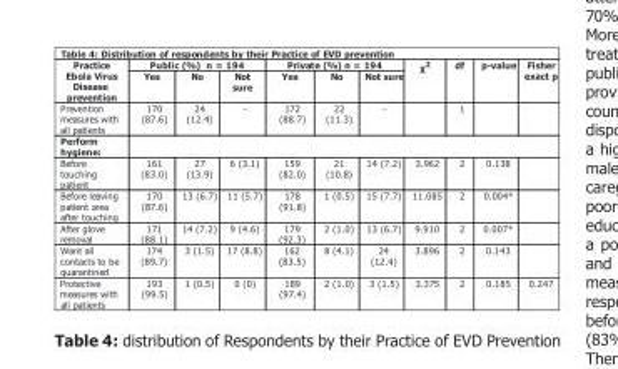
<table><thead><tr><td rowspan="2">Practice Ebola Virus Disease prevention</td><td colspan="3">Public (%) n = 194</td><td colspan="3">Private (%) n = 194</td><td rowspan="2">χ<sup>2</sup></td><td rowspan="2">df</td><td rowspan="2">pvalue</td><td rowspan="2">Fisher exact p</td></tr><tr><td>Yes</td><td>No</td><td>Not sure</td><td>Yes</td><td>No</td><td>Not sure</td></tr></thead><tbody><tr><td>Prevention measures with all patients</td><td>170 (87.6)</td><td>24 (12.4)</td><td></td><td>172 (88.7)</td><td>22 (11.3)</td><td></td><td></td><td>1</td><td></td><td></td></tr><tr><td colspan="11">Perform hygiene:</td></tr><tr><td>Before touching patient</td><td>161 (83.0)</td><td>27 (13.9)</td><td>6 (3.1)</td><td>159 (82.0)</td><td>21 (10.8)</td><td>14 (7.2)</td><td>3.962</td><td>2</td><td>0.138</td><td></td></tr><tr><td>Before leaving patient area after touching</td><td>170 (87.6)</td><td>13 (6.7)</td><td>11 (5.7)</td><td>178 (91.8)</td><td>1 (0.5)</td><td>15 (7.7)</td><td>11.085</td><td>2</td><td>0.004*</td><td></td></tr><tr><td>After glove removal</td><td>171 (88.1)</td><td>14 (7.2)</td><td>9 (4.6)</td><td>179 (92.3)</td><td>2 (1.0)</td><td>13 (6.7)</td><td>9.910</td><td>2</td><td>0.007*</td><td></td></tr><tr><td>Want all contacts to be quarantined</td><td>174 (89.7)</td><td>3 (1.5)</td><td>17 (8.8)</td><td>162 (83.5)</td><td>8 (4.1)</td><td>24 (12.4)</td><td>3.896</td><td>2</td><td>0.143</td><td></td></tr><tr><td>Protective measures with all patients</td><td>193 (99.5)</td><td>1 (0.5)</td><td>0 (0)</td><td>189 (97.4)</td><td>2 (1.0)</td><td>3 (1.5)</td><td>3.375</td><td>2</td><td>0.185</td><td>0.247</td></tr></tbody></table>